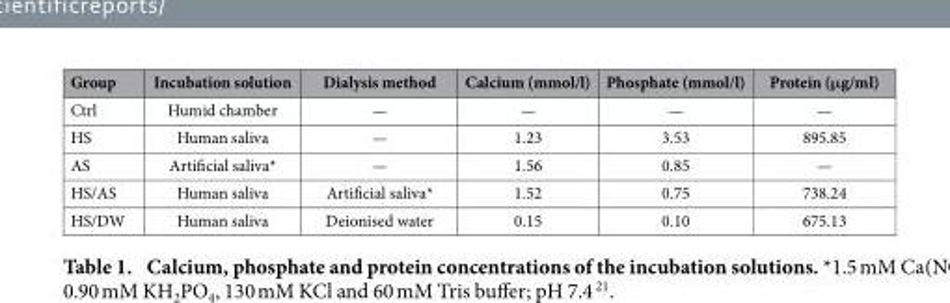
<table><thead><tr><td>Group</td><td>Incubation solution</td><td>Dialysis method</td><td>Calcium (mmol/l)</td><td>Phosphate (mmol/l)</td><td>Protein (μg/ml)</td></tr></thead><tbody><tr><td>Ctrl</td><td>Humid chamber</td><td>—</td><td>—</td><td>—</td><td>—</td></tr><tr><td>HS</td><td>Human saliva</td><td>—</td><td>1.23</td><td>3.53</td><td>895.85</td></tr><tr><td>AS</td><td>Artificial saliva*</td><td>—</td><td>1.56</td><td>0.85</td><td>—</td></tr><tr><td>HS/AS</td><td>Human saliva</td><td>Artificial saliva*</td><td>1.52</td><td>0.75</td><td>738.24</td></tr><tr><td>HS/DW</td><td>Human saliva</td><td>Deionised water</td><td>0.15</td><td>0.10</td><td>675.13</td></tr></tbody></table>